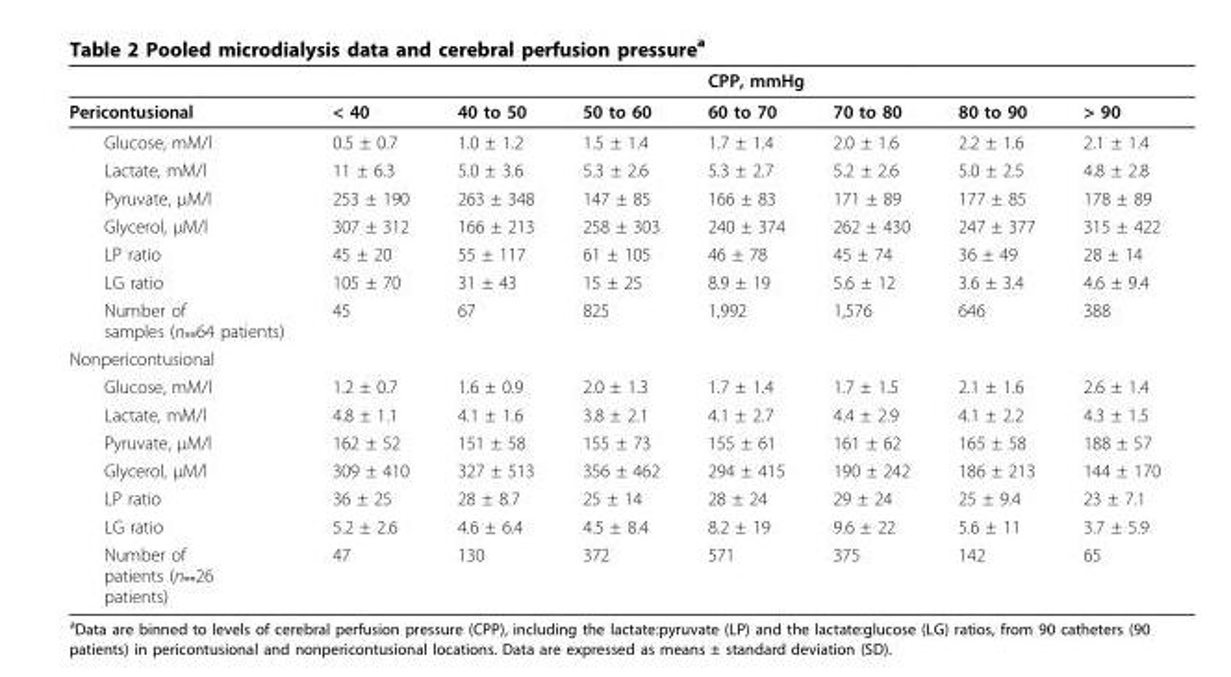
<table><thead><tr><td rowspan="2">Pericontusional</td><td rowspan="2">&lt; 40</td><td rowspan="2">40 to 50</td><td rowspan="2">50 to 60</td><td colspan="2">CPP, mmHg</td><td rowspan="2">80 to 90</td><td rowspan="2">&gt; 90</td></tr><tr><td>60 to 70</td><td>70 to 80</td></tr></thead><tbody><tr><td>Glucose, mM/l</td><td>0.5 ± 0.7</td><td>1.0 ± 1.2</td><td>1.5 ± 1.4</td><td>1.7 ± 1.4</td><td>2.0 ± 1.6</td><td>2.2 ± 1.6</td><td>2.1 ± 1.4</td></tr><tr><td>Lactate, mM/l</td><td>11 ± 6.3</td><td>5.0 ± 3.6</td><td>5.3 ± 2.6</td><td>5.3 ± 2.7</td><td>5.2 ± 2.6</td><td>5.0 ± 2.5</td><td>4.8 ± 2.8</td></tr><tr><td>Pyruvate, μM/l</td><td>253 ± 190</td><td>263 ± 348</td><td>147 ± 85</td><td>166 ± 83</td><td>171 ± 89</td><td>177 ± 85</td><td>178 ± 89</td></tr><tr><td>Glycerol, μM/l</td><td>307 ± 312</td><td>166 ± 213</td><td>258 ± 303</td><td>240 ± 374</td><td>262 ± 430</td><td>247 ± 377</td><td>315 ± 422</td></tr><tr><td>LP ratio</td><td>45 ± 20</td><td>55 ± 117</td><td>61 ± 105</td><td>46 ± 78</td><td>45 ± 74</td><td>36 ± 49</td><td>28 ± 14</td></tr><tr><td>LG ratio</td><td>105 ± 70</td><td>31 ± 43</td><td>15 ± 25</td><td>8.9 ± 19</td><td>5.6 ± 12</td><td>3.6 ± 3.4</td><td>4.6 ± 9.4</td></tr><tr><td>Number of samples (n₌₌64 patients)</td><td>45</td><td>67</td><td>825</td><td>1,992</td><td>1,576</td><td>646</td><td>388</td></tr><tr><td colspan="8">Nonpericontusional</td></tr><tr><td>Glucose, mM/l</td><td>1.2 ± 0.7</td><td>1.6 ± 0.9</td><td>2.0 ± 1.3</td><td>1.7 ± 1.4</td><td>1.7 ± 1.5</td><td>2.1 ± 1.6</td><td>2.6 ± 1.4</td></tr><tr><td>Lactate, mM/l</td><td>4.8 ± 1.1</td><td>4.1 ± 1.6</td><td>3.8 ± 2.1</td><td>4.1 ± 2.7</td><td>4.4 ± 2.9</td><td>4.1 ± 2.2</td><td>4.3 ± 1.5</td></tr><tr><td>Pyruvate, μM/l</td><td>162 ± 52</td><td>151 ± 58</td><td>155 ± 73</td><td>155 ± 61</td><td>161 ± 62</td><td>165 ± 58</td><td>188 ± 57</td></tr><tr><td>Glycerol, μM/l</td><td>309 ± 410</td><td>327 ± 513</td><td>356 ± 462</td><td>294 ± 415</td><td>190 ± 242</td><td>186 ± 213</td><td>144 ± 170</td></tr><tr><td>LP ratio</td><td>36 ± 25</td><td>28 ± 8.7</td><td>25 ± 14</td><td>28 ± 24</td><td>29 ± 24</td><td>25 ± 9.4</td><td>23 ± 7.1</td></tr><tr><td>LG ratio</td><td>5.2 ± 2.6</td><td>4.6 ± 6.4</td><td>4.5 ± 8.4</td><td>8.2 ± 19</td><td>9.6 ± 22</td><td>5.6 ± 11</td><td>3.7 ± 5.9</td></tr><tr><td>Number of patients (n₌₌26 patients)</td><td>47</td><td>130</td><td>372</td><td>571</td><td>375</td><td>142</td><td>65</td></tr></tbody></table>